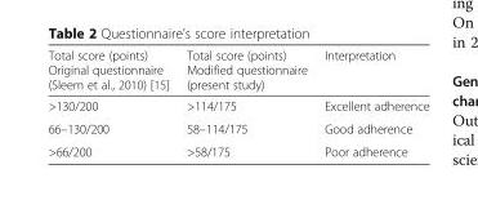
<table><thead><tr><td>Total score (points) Original questionnaire (Sleem et al., 2010) [15]</td><td>Total score (points) Modified questionnaire (present study)</td><td>Interpretation</td></tr></thead><tbody><tr><td>&gt;130/200</td><td>&gt;114/175</td><td>Excellent adherence</td></tr><tr><td>66–130/200</td><td>58–114/175</td><td>Good adherence</td></tr><tr><td>&gt;66/200</td><td>&gt;58/175</td><td>Poor adherence</td></tr></tbody></table>